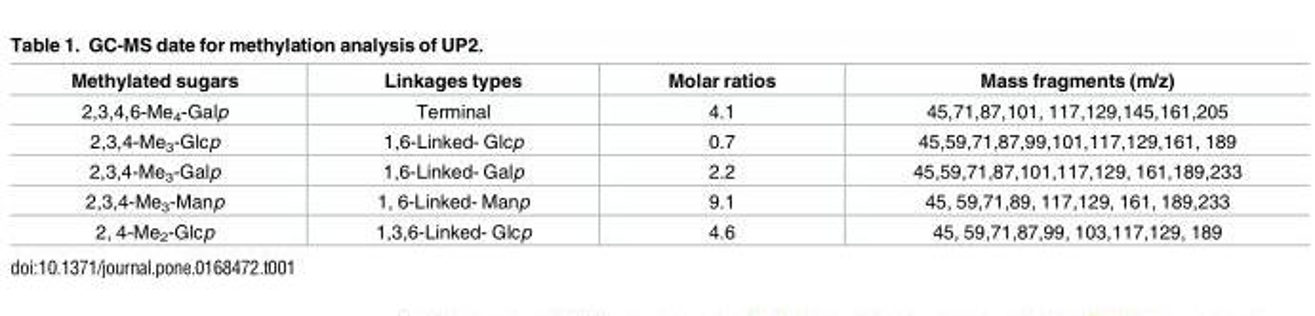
<table><thead><tr><td>Methylated sugars</td><td>Linkages types</td><td>Molar ratios</td><td>Mass fragments (m/z)</td></tr></thead><tbody><tr><td>2,3,4,6-Me<sub>4</sub>-Galp</td><td>Terminal</td><td>4.1</td><td>45,71,87,101, 117,129,145,161,205</td></tr><tr><td>2,3,4-Me<sub>3</sub>-Glcp</td><td>1,6-Linked- Glcp</td><td>0.7</td><td>45,59,71,87,99,101,117,129,161, 189</td></tr><tr><td>2,3,4-Me<sub>3</sub>-Galp</td><td>1,6-Linked- Galp</td><td>2.2</td><td>45,59,71,87,101,117,129, 161,189,233</td></tr><tr><td>2,3,4-Me<sub>3</sub>-Manp</td><td>1, 6-Linked- Manp</td><td>9.1</td><td>45, 59,71,89, 117,129, 161, 189,233</td></tr><tr><td>2, 4-Me<sub>2</sub>-Glcp</td><td>1,3,6-Linked- Glcp</td><td>4.6</td><td>45, 59,71,87,99, 103,117,129, 189</td></tr></tbody></table>